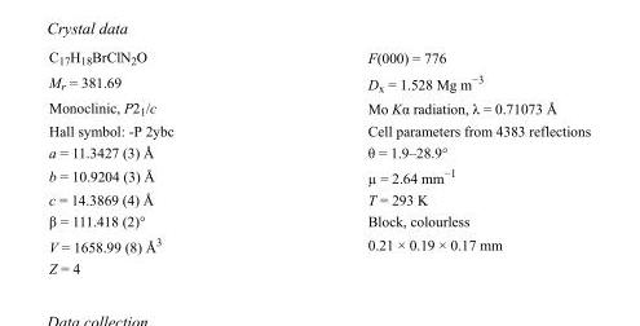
<table><tbody><tr><td>C<sub>17</sub>H<sub>18</sub>BrClN<sub>2</sub>O</td><td>F(000) = 776</td></tr><tr><td>M<sub>r</sub> = 381.69</td><td>D<sub>x</sub> = 1.528 Mg m<sup>−3</sup></td></tr><tr><td>Monoclinic, P2<sub>1</sub>/c</td><td>Mo Kα radiation, λ = 0.71073 Å</td></tr><tr><td>Hall symbol: -P 2ybc</td><td>Cell parameters from 4383 reflections</td></tr><tr><td>a = 11.3427 (3) Å</td><td>θ = 1.9–28.9°</td></tr><tr><td>b = 10.9204 (3) Å</td><td>µ = 2.64 mm<sup>−1</sup></td></tr><tr><td>c = 14.3869 (4) Å</td><td>T = 293 K</td></tr><tr><td>β = 111.418 (2)°</td><td>Block, colourless</td></tr><tr><td>V = 1658.99 (8) Å<sup>3</sup></td><td>0.21 × 0.19 × 0.17 mm</td></tr><tr><td>Z = 4</td><td></td></tr></tbody></table>